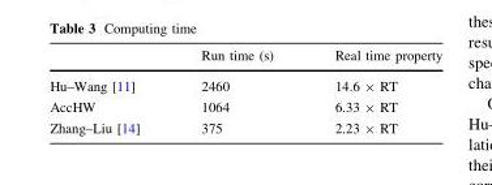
<table><thead><tr><td></td><td>Run time (s)</td><td>Real time property</td></tr></thead><tbody><tr><td>Hu–Wang [11]</td><td>2460</td><td>14.6 × RT</td></tr><tr><td>AccHW</td><td>1064</td><td>6.33 × RT</td></tr><tr><td>Zhang–Liu [14]</td><td>375</td><td>2.23 × RT</td></tr></tbody></table>